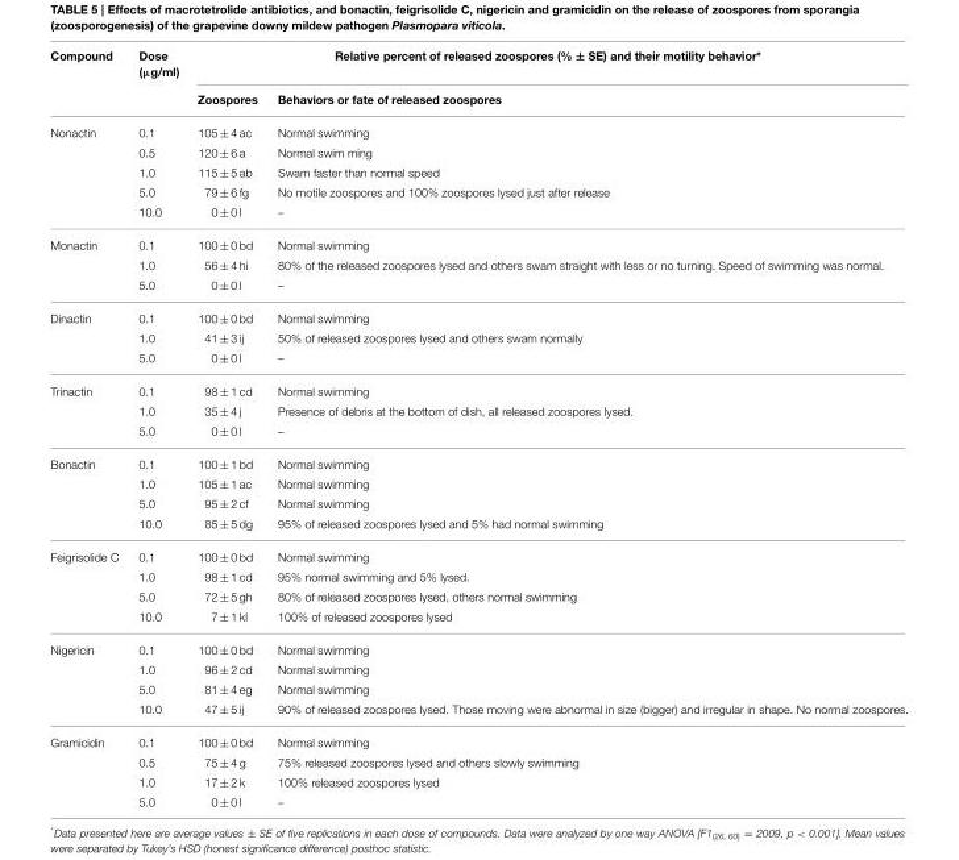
<table><thead><tr><td rowspan="2">Compound</td><td rowspan="2">Dose (µg/ml)</td><td colspan="2">Relative percent of released zoospores (% ± SE) and their motility behavior*</td></tr><tr><td>Zoospores</td><td>Behaviors or fate of released zoospores</td></tr></thead><tbody><tr><td rowspan="5">Nonactin</td><td>0.1</td><td>105 ± 4 ac</td><td>Normal swimming</td></tr><tr><td>0.5</td><td>120 ± 6 a</td><td>Normal swim ming</td></tr><tr><td>1.0</td><td>115 ± 5 ab</td><td>Swam faster than normal speed</td></tr><tr><td>5.0</td><td>79 ± 6 fg</td><td>No motile zoospores and 100% zoospores lysed just after release</td></tr><tr><td>10.0</td><td>0 ± 0 l</td><td>–</td></tr><tr><td rowspan="3">Monactin</td><td>0.1</td><td>100 ± 0 bd</td><td>Normal swimming</td></tr><tr><td>1.0</td><td>56 ± 4 hi</td><td>80% of the released zoospores lysed and others swam straight with less or no turning. Speed of swimming was normal.</td></tr><tr><td>5.0</td><td>0 ± 0 l</td><td>–</td></tr><tr><td rowspan="3">Dinactin</td><td>0.1</td><td>100 ± 0 bd</td><td>Normal swimming</td></tr><tr><td>1.0</td><td>41 ± 3 ij</td><td>50% of released zoospores lysed and others swam normally</td></tr><tr><td>5.0</td><td>0 ± 0 l</td><td>–</td></tr><tr><td rowspan="3">Trinactin</td><td>0.1</td><td>98 ± 1 cd</td><td>Normal swimming</td></tr><tr><td>1.0</td><td>35 ± 4 j</td><td>Presence of debris at the bottom of dish, all released zoospores lysed.</td></tr><tr><td>5.0</td><td>0 ± 0 l</td><td>–</td></tr><tr><td rowspan="4">Bonactin</td><td>0.1</td><td>100 ± 1 bd</td><td>Normal swimming</td></tr><tr><td>1.0</td><td>105 ± 1 ac</td><td>Normal swimming</td></tr><tr><td>5.0</td><td>95 ± 2 cf</td><td>Normal swimming</td></tr><tr><td>10.0</td><td>85 ± 5 dg</td><td>95% of released zoospores lysed and 5% had normal swimming</td></tr><tr><td rowspan="4">Feigrisolide C</td><td>0.1</td><td>100 ± 0 bd</td><td>Normal swimming</td></tr><tr><td>1.0</td><td>98 ± 1 cd</td><td>95% normal swimming and 5% lysed.</td></tr><tr><td>5.0</td><td>72 ± 5 gh</td><td>80% of released zoospores lysed, others normal swimming</td></tr><tr><td>10.0</td><td>7 ± 1 kl</td><td>100% of released zoospores lysed</td></tr><tr><td rowspan="4">Nigericin</td><td>0.1</td><td>100 ± 0 bd</td><td>Normal swimming</td></tr><tr><td>1.0</td><td>96 ± 2 cd</td><td>Normal swimming</td></tr><tr><td>5.0</td><td>81 ± 4 eg</td><td>Normal swimming</td></tr><tr><td>10.0</td><td>47 ± 5 ij</td><td>90% of released zoospores lysed. Those moving were abnormal in size (bigger) and irregular in shape. No normal zoospores.</td></tr><tr><td rowspan="4">Gramicidin</td><td>0.1</td><td>100 ± 0 bd</td><td>Normal swimming</td></tr><tr><td>0.5</td><td>75 ± 4 g</td><td>75% released zoospores lysed and others slowly swimming</td></tr><tr><td>1.0</td><td>17 ± 2 k</td><td>100% released zoospores lysed</td></tr><tr><td>5.0</td><td>0 ± 0 l</td><td>–</td></tr></tbody></table>